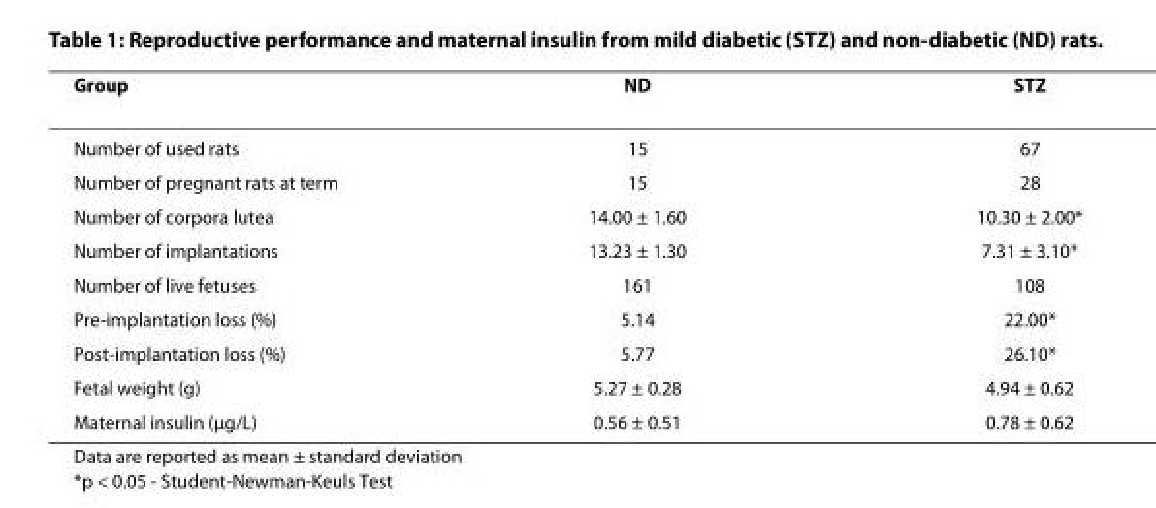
<table><thead><tr><td>Group</td><td>ND</td><td>STZ</td></tr></thead><tbody><tr><td>Number of used rats</td><td>15</td><td>67</td></tr><tr><td>Number of pregnant rats at term</td><td>15</td><td>28</td></tr><tr><td>Number of corpora lutea</td><td>14.00 ± 1.60</td><td>10.30 ± 2.00*</td></tr><tr><td>Number of implantations</td><td>13.23 ± 1.30</td><td>7.31 ± 3.10*</td></tr><tr><td>Number of live fetuses</td><td>161</td><td>108</td></tr><tr><td>Pre-implantation loss (%)</td><td>5.14</td><td>22.00*</td></tr><tr><td>Post-implantation loss (%)</td><td>5.77</td><td>26.10*</td></tr><tr><td>Fetal weight (g)</td><td>5.27 ± 0.28</td><td>4.94 ± 0.62</td></tr><tr><td>Maternal insulin (μg/L)</td><td>0.56 ± 0.51</td><td>0.78 ± 0.62</td></tr></tbody></table>